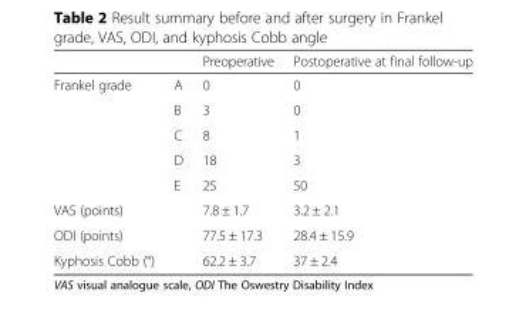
<table><thead><tr><td></td><td></td><td>Preoperative</td><td>Postoperative at final follow-up</td></tr></thead><tbody><tr><td rowspan="5">Frankel grade</td><td>A</td><td>0</td><td>0</td></tr><tr><td>B</td><td>3</td><td>0</td></tr><tr><td>C</td><td>8</td><td>1</td></tr><tr><td>D</td><td>18</td><td>3</td></tr><tr><td>E</td><td>25</td><td>50</td></tr><tr><td>VAS (points)</td><td></td><td>7.8 ± 1.7</td><td>3.2 ± 2.1</td></tr><tr><td>ODI (points)</td><td></td><td>77.5 ± 17.3</td><td>28.4 ± 15.9</td></tr><tr><td>Kyphosis Cobb (°)</td><td></td><td>62.2 ± 3.7</td><td>37 ± 2.4</td></tr></tbody></table>